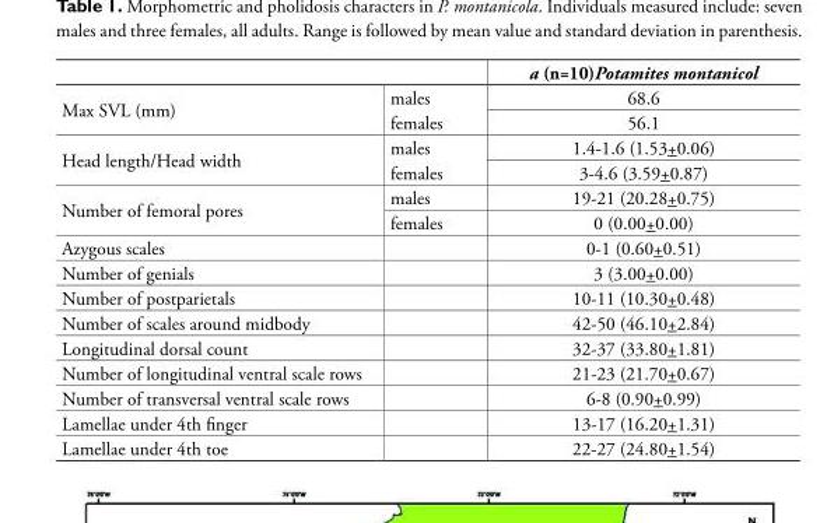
<table><thead><tr><td></td><td></td><td>a (n=10)Potamites montanicol</td></tr></thead><tbody><tr><td rowspan="2">Max SVL (mm)</td><td>males</td><td>68.6</td></tr><tr><td>females</td><td>56.1</td></tr><tr><td rowspan="2">Head length/Head width</td><td>males</td><td>1.4-1.6 (1.53+0.06)</td></tr><tr><td>females</td><td>3-4.6 (3.59+0.87)</td></tr><tr><td rowspan="2">Number of femoral pores</td><td>males</td><td>19-21 (20.28+0.75)</td></tr><tr><td>females</td><td>0 (0.00+0.00)</td></tr><tr><td>Azygous scales</td><td></td><td>0-1 (0.60+0.51)</td></tr><tr><td>Number of genials</td><td></td><td>3 (3.00+0.00)</td></tr><tr><td>Number of postparietals</td><td></td><td>10-11 (10.30+0.48)</td></tr><tr><td>Number of scales around midbody</td><td></td><td>42-50 (46.10+2.84)</td></tr><tr><td>Longitudinal dorsal count</td><td></td><td>32-37 (33.80+1.81)</td></tr><tr><td>Number of longitudinal ventral scale rows</td><td></td><td>21-23 (21.70+0.67)</td></tr><tr><td>Number of transversal ventral scale rows</td><td></td><td>6-8 (0.90+0.99)</td></tr><tr><td>Lamellae under 4th finger</td><td></td><td>13-17 (16.20+1.31)</td></tr><tr><td>Lamellae under 4th toe</td><td></td><td>22-27 (24.80+1.54)</td></tr></tbody></table>